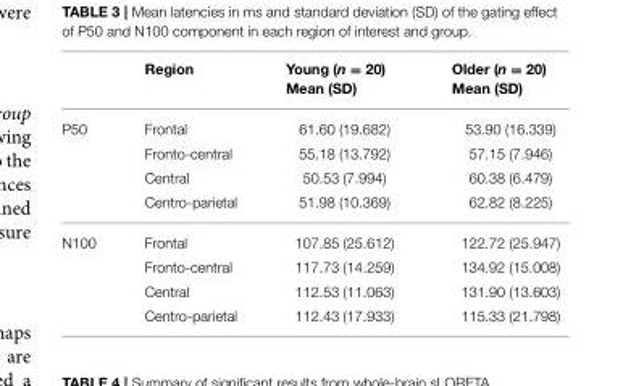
<table><thead><tr><td></td><td>Region</td><td>Young (n = 20) Mean (SD)</td><td>Older (n = 20) Mean (SD)</td></tr></thead><tbody><tr><td rowspan="4">P50</td><td>Frontal</td><td>61.60 (19.682)</td><td>53.90 (16.339)</td></tr><tr><td>Fronto-central</td><td>55.18 (13.792)</td><td>57.15 (7.946)</td></tr><tr><td>Central</td><td>50.53 (7.994)</td><td>60.38 (6.479)</td></tr><tr><td>Centro-parietal</td><td>51.98 (10.369)</td><td>62.82 (8.225)</td></tr><tr><td rowspan="4">N100</td><td>Frontal</td><td>107.85 (25.612)</td><td>122.72 (25.947)</td></tr><tr><td>Fronto-central</td><td>117.73 (14.259)</td><td>134.92 (15.008)</td></tr><tr><td>Central</td><td>112.53 (11.063)</td><td>131.90 (13.603)</td></tr><tr><td>Centro-parietal</td><td>112.43 (17.933)</td><td>115.33 (21.798)</td></tr></tbody></table>